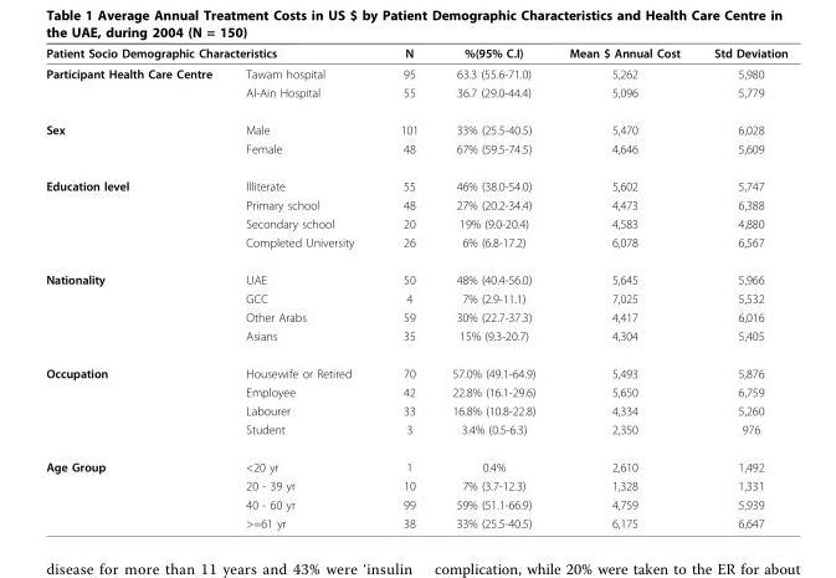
<table><thead><tr><td colspan="2">Patient Socio Demographic Characteristics</td><td rowspan="2">N 95</td><td rowspan="2">%(95% C.I) 63.3 (55.6-71.0)</td><td rowspan="2">Mean $ Annual Cost 5,262</td><td rowspan="2">Std Deviation 5,980</td></tr><tr><td>Participant Health Care Centre</td><td>Tawam hospital</td></tr></thead><tbody><tr><td></td><td>Al-Ain Hospital</td><td>55</td><td>36.7 (29.0-44.4)</td><td>5,096</td><td>5,779</td></tr><tr><td rowspan="2">Sex</td><td>Male</td><td>101</td><td>33% (25.5-40.5)</td><td>5,470</td><td>6,028</td></tr><tr><td>Female</td><td>48</td><td>67% (59.5-74.5)</td><td>4,646</td><td>5,609</td></tr><tr><td rowspan="4">Education level</td><td>Illiterate</td><td>55</td><td>46% (38.0-54.0)</td><td>5,602</td><td>5,747</td></tr><tr><td>Primary school</td><td>48</td><td>27% (20.2-34.4)</td><td>4,473</td><td>6,388</td></tr><tr><td>Secondary school</td><td>20</td><td>19% (9.0-20.4)</td><td>4,583</td><td>4,880</td></tr><tr><td>Completed University</td><td>26</td><td>6% (6.8-17.2)</td><td>6,078</td><td>6,567</td></tr><tr><td rowspan="4">Nationality</td><td>UAE</td><td>50</td><td>48% (40.4-56.0)</td><td>5,645</td><td>5,966</td></tr><tr><td>GCC</td><td>4</td><td>7% (2.9-11.1)</td><td>7,025</td><td>5,532</td></tr><tr><td>Other Arabs</td><td>59</td><td>30% (22.7-37.3)</td><td>4,417</td><td>6,016</td></tr><tr><td>Asians</td><td>35</td><td>15% (9.3-20.7)</td><td>4,304</td><td>5,405</td></tr><tr><td rowspan="4">Occupation</td><td>Housewife or Retired</td><td>70</td><td>57.0% (49.1-64.9)</td><td>5,493</td><td>5,876</td></tr><tr><td>Employee</td><td>42</td><td>22.8% (16.1-29.6)</td><td>5,650</td><td>6,759</td></tr><tr><td>Labourer</td><td>33</td><td>16.8% (10.8-22.8)</td><td>4,334</td><td>5,260</td></tr><tr><td>Student</td><td>3</td><td>3.4% (0.5-6.3)</td><td>2,350</td><td>976</td></tr><tr><td rowspan="4">Age Group</td><td>&lt;20 yr</td><td>1</td><td>0.4%</td><td>2,610</td><td>1,492</td></tr><tr><td>20 - 39 yr</td><td>10</td><td>7% (3.7-12.3)</td><td>1,328</td><td>1,331</td></tr><tr><td>40 - 60 yr</td><td>99</td><td>59% (51.1-66.9)</td><td>4,759</td><td>5,939</td></tr><tr><td>&gt;=61 yr</td><td>38</td><td>33% (25.5-40.5)</td><td>6,175</td><td>6,647</td></tr></tbody></table>